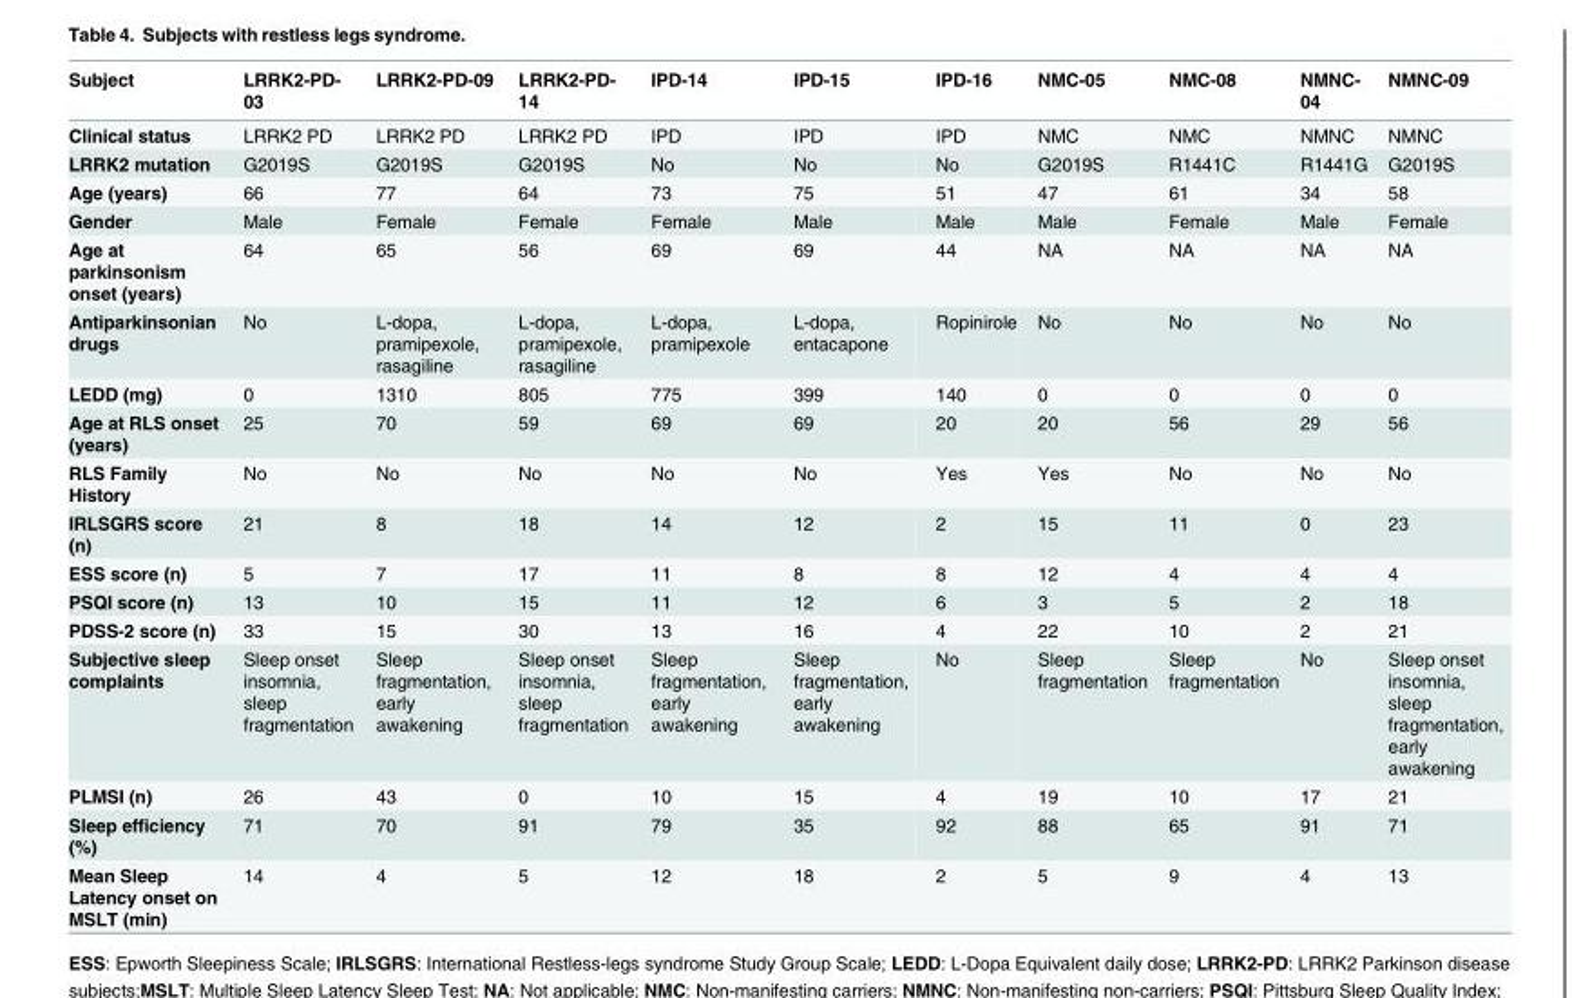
<table><thead><tr><td>Subject</td><td>LRRK2-PD- 03</td><td>LRRK2-PD-09</td><td>LRRK2-PD- 14</td><td>IPD-14</td><td>IPD-15</td><td>IPD-16</td><td>NMC-05</td><td>NMC-08</td><td>NMNC- 04</td><td>NMNC-09</td></tr></thead><tbody><tr><td>Clinical status</td><td>LRRK2 PD</td><td>LRRK2 PD</td><td>LRRK2 PD</td><td>IPD</td><td>IPD</td><td>IPD</td><td>NMC</td><td>NMC</td><td>NMNC</td><td>NMNC</td></tr><tr><td>LRRK2 mutation</td><td>G2019S</td><td>G2019S</td><td>G2019S</td><td>No</td><td>No</td><td>No</td><td>G2019S</td><td>R1441C</td><td>R1441G</td><td>G2019S</td></tr><tr><td>Age (years)</td><td>66</td><td>77</td><td>64</td><td>73</td><td>75</td><td>51</td><td>47</td><td>61</td><td>34</td><td>58</td></tr><tr><td>Gender</td><td>Male</td><td>Female</td><td>Female</td><td>Female</td><td>Male</td><td>Male</td><td>Male</td><td>Female</td><td>Male</td><td>Female</td></tr><tr><td>Age at parkinsonism onset (years)</td><td>64</td><td>65</td><td>56</td><td>69</td><td>69</td><td>44</td><td>NA</td><td>NA</td><td>NA</td><td>NA</td></tr><tr><td>Antiparkinsonian drugs</td><td>No</td><td>L-dopa, pramipexole, rasagiline</td><td>L-dopa, pramipexole, rasagiline</td><td>L-dopa, pramipexole</td><td>L-dopa, entacapone</td><td>Ropinirole</td><td>No</td><td>No</td><td>No</td><td>No</td></tr><tr><td>LEDD (mg)</td><td>0</td><td>1310</td><td>805</td><td>775</td><td>399</td><td>140</td><td>0</td><td>0</td><td>0</td><td>0</td></tr><tr><td>Age at RLS onset (years)</td><td>25</td><td>70</td><td>59</td><td>69</td><td>69</td><td>20</td><td>20</td><td>56</td><td>29</td><td>56</td></tr><tr><td>RLS Family History</td><td>No</td><td>No</td><td>No</td><td>No</td><td>No</td><td>Yes</td><td>Yes</td><td>No</td><td>No</td><td>No</td></tr><tr><td>IRLSGRS score (n)</td><td>21</td><td>8</td><td>18</td><td>14</td><td>12</td><td>2</td><td>15</td><td>11</td><td>0</td><td>23</td></tr><tr><td>ESS score (n)</td><td>5</td><td>7</td><td>17</td><td>11</td><td>8</td><td>8</td><td>12</td><td>4</td><td>4</td><td>4</td></tr><tr><td>PSQI score (n)</td><td>13</td><td>10</td><td>15</td><td>11</td><td>12</td><td>6</td><td>3</td><td>5</td><td>2</td><td>18</td></tr><tr><td>PDSS-2 score (n)</td><td>33</td><td>15</td><td>30</td><td>13</td><td>16</td><td>4</td><td>22</td><td>10</td><td>2</td><td>21</td></tr><tr><td>Subjective sleep complaints</td><td>Sleep onset insomnia, sleep fragmentation</td><td>Sleep fragmentation, early awakening</td><td>Sleep onset insomnia, sleep fragmentation</td><td>Sleep fragmentation, early awakening</td><td>Sleep fragmentation, early awakening</td><td>No</td><td>Sleep fragmentation</td><td>Sleep fragmentation</td><td>No</td><td>Sleep onset insomnia, sleep fragmentation, early awakening</td></tr><tr><td>PLMSI (n)</td><td>26</td><td>43</td><td>0</td><td>10</td><td>15</td><td>4</td><td>19</td><td>10</td><td>17</td><td>21</td></tr><tr><td>Sleep efficiency (%)</td><td>71</td><td>70</td><td>91</td><td>79</td><td>35</td><td>92</td><td>88</td><td>65</td><td>91</td><td>71</td></tr><tr><td>Mean Sleep Latency onset on MSLT (min)</td><td>14</td><td>4</td><td>5</td><td>12</td><td>18</td><td>2</td><td>5</td><td>9</td><td>4</td><td>13</td></tr></tbody></table>